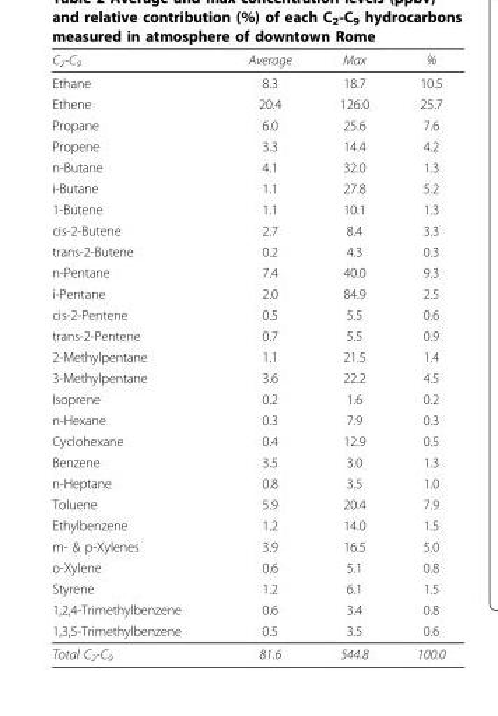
<table><thead><tr><td>C<sub>2</sub>-C<sub>9</sub></td><td>Average</td><td>Max</td><td>%</td></tr></thead><tbody><tr><td>Ethane</td><td>8.3</td><td>18.7</td><td>10.5</td></tr><tr><td>Ethene</td><td>20.4</td><td>126.0</td><td>25.7</td></tr><tr><td>Propane</td><td>6.0</td><td>25.6</td><td>7.6</td></tr><tr><td>Propene</td><td>3.3</td><td>14.4</td><td>4.2</td></tr><tr><td>n-Butane</td><td>4.1</td><td>32.0</td><td>1.3</td></tr><tr><td>i-Butane</td><td>1.1</td><td>27.8</td><td>5.2</td></tr><tr><td>1-Butene</td><td>1.1</td><td>10.1</td><td>1.3</td></tr><tr><td>cis-2-Butene</td><td>2.7</td><td>8.4</td><td>3.3</td></tr><tr><td>trans-2-Butene</td><td>0.2</td><td>4.3</td><td>0.3</td></tr><tr><td>n-Pentane</td><td>7.4</td><td>40.0</td><td>9.3</td></tr><tr><td>i-Pentane</td><td>2.0</td><td>84.9</td><td>2.5</td></tr><tr><td>cis-2-Pentene</td><td>0.5</td><td>5.5</td><td>0.6</td></tr><tr><td>trans-2-Pentene</td><td>0.7</td><td>5.5</td><td>0.9</td></tr><tr><td>2-Methylpentane</td><td>1.1</td><td>21.5</td><td>1.4</td></tr><tr><td>3-Methylpentane</td><td>3.6</td><td>22.2</td><td>4.5</td></tr><tr><td>Isoprene</td><td>0.2</td><td>1.6</td><td>0.2</td></tr><tr><td>n-Hexane</td><td>0.3</td><td>7.9</td><td>0.3</td></tr><tr><td>Cyclohexane</td><td>0.4</td><td>12.9</td><td>0.5</td></tr><tr><td>Benzene</td><td>3.5</td><td>3.0</td><td>1.3</td></tr><tr><td>n-Heptane</td><td>0.8</td><td>3.5</td><td>1.0</td></tr><tr><td>Toluene</td><td>5.9</td><td>20.4</td><td>7.9</td></tr><tr><td>Ethylbenzene</td><td>1.2</td><td>14.0</td><td>1.5</td></tr><tr><td>m- &amp; p-Xylenes</td><td>3.9</td><td>16.5</td><td>5.0</td></tr><tr><td>o-Xylene</td><td>0.6</td><td>5.1</td><td>0.8</td></tr><tr><td>Styrene</td><td>1.2</td><td>6.1</td><td>1.5</td></tr><tr><td>1,2,4-Trimethylbenzene</td><td>0.6</td><td>3.4</td><td>0.8</td></tr><tr><td>1,3,5-Trimethylbenzene</td><td>0.5</td><td>3.5</td><td>0.6</td></tr><tr><td>Total C<sub>2</sub>-C<sub>9</sub></td><td>81.6</td><td>544.8</td><td>100.0</td></tr></tbody></table>